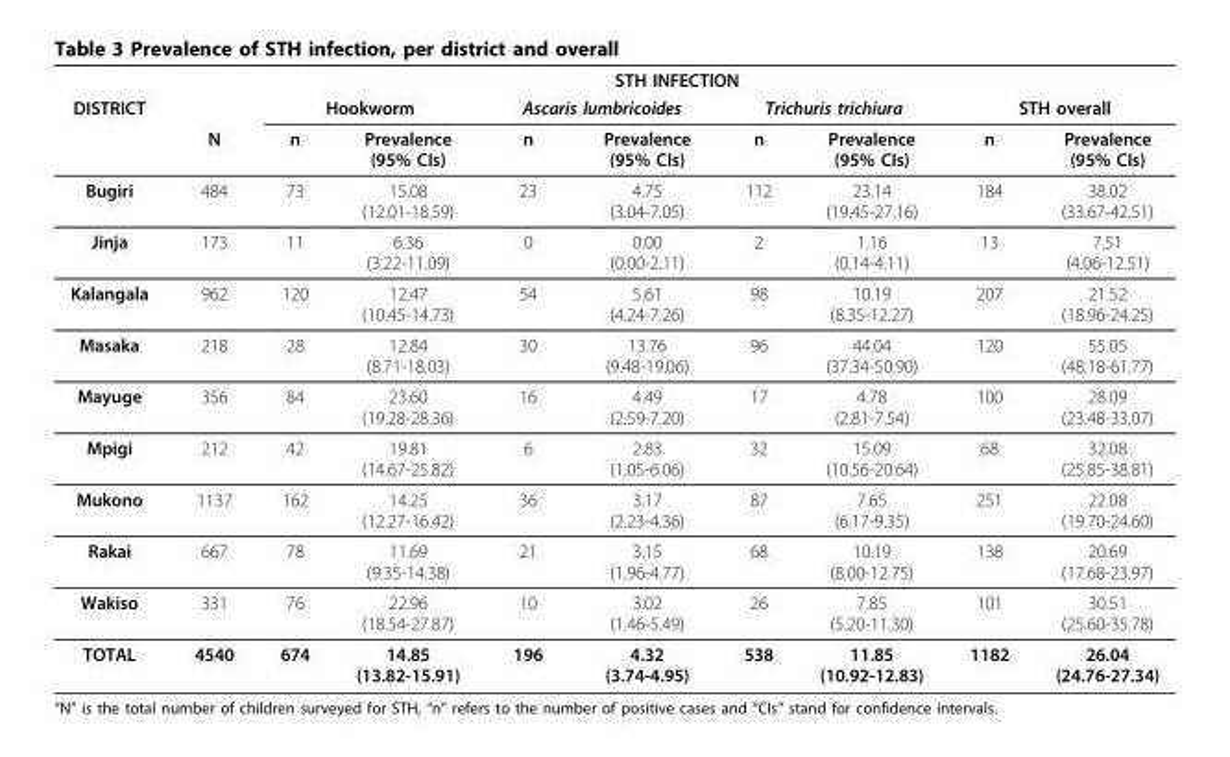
<table><thead><tr><td rowspan="3">DISTRICT</td><td colspan="9">STH INFECTION</td></tr><tr><td rowspan="2">N</td><td colspan="2">Hookworm</td><td colspan="2">Ascaris lumbricoides</td><td colspan="2">Trichuris trichiura</td><td colspan="2">STH overall</td></tr><tr><td>n</td><td>Prevalence (95% CIs)</td><td>n</td><td>Prevalence (95% CIs)</td><td>n</td><td>Prevalence (95% CIs)</td><td>n</td><td>Prevalence (95% CIs)</td></tr></thead><tbody><tr><td>Bugiri</td><td>484</td><td>73</td><td>15.08 (12.01-18.59)</td><td>23</td><td>4.75 (3.04-7.05)</td><td>112</td><td>23.14 (19.45-27.16)</td><td>184</td><td>38.02 (33.67-42.51)</td></tr><tr><td>Jinja</td><td>173</td><td>11</td><td>6.36 (3.22-11.09)</td><td>0</td><td>0.00 (0.00-2.11)</td><td>2</td><td>1.16 (0.14-4.11)</td><td>13</td><td>7.51 (4.06-12.51)</td></tr><tr><td>Kalangala</td><td>962</td><td>120</td><td>12.47 (10.45-14.73)</td><td>54</td><td>5.61 (4.24-7.26)</td><td>98</td><td>10.19 (8.35-12.27)</td><td>207</td><td>21.52 (18.96-24.25)</td></tr><tr><td>Masaka</td><td>218</td><td>28</td><td>12.84 (8.71-18.03)</td><td>30</td><td>13.76 (9.48-19.06)</td><td>96</td><td>44.04 (37.34-50.90)</td><td>120</td><td>55.05 (48.18-61.77)</td></tr><tr><td>Mayuge</td><td>356</td><td>84</td><td>23.60 (19.28-28.36)</td><td>16</td><td>4.49 (2.59-7.20)</td><td>17</td><td>4.78 (2.81-7.54)</td><td>100</td><td>28.09 (23.48-33.07)</td></tr><tr><td>Mpigi</td><td>212</td><td>42</td><td>19.81 (14.67-25.82)</td><td>6</td><td>2.83 (1.05-6.06)</td><td>32</td><td>15.09 (10.56-20.64)</td><td>68</td><td>32.08 (25.85-38.81)</td></tr><tr><td>Mukono</td><td>1137</td><td>162</td><td>14.25 (12.27-16.42)</td><td>36</td><td>3.17 (2.23-4.36)</td><td>87</td><td>7.65 (6.17-9.35)</td><td>251</td><td>22.08 (19.70-24.60)</td></tr><tr><td>Rakai</td><td>667</td><td>78</td><td>11.69 (9.35-14.38)</td><td>21</td><td>3.15 (1.96-4.77)</td><td>68</td><td>10.19 (8.00-12.75)</td><td>138</td><td>20.69 (17.68-23.97)</td></tr><tr><td>Wakiso</td><td>331</td><td>76</td><td>22.96 (18.54-27.87)</td><td>10</td><td>3.02 (1.46-5.49)</td><td>26</td><td>7.85 (5.20-11.30)</td><td>101</td><td>30.51 (25.60-35.78)</td></tr><tr><td>TOTAL</td><td>4540</td><td>674</td><td>14.85 (13.82-15.91)</td><td>196</td><td>4.32 (3.74-4.95)</td><td>538</td><td>11.85 (10.92-12.83)</td><td>1182</td><td>26.04 (24.76-27.34)</td></tr></tbody></table>